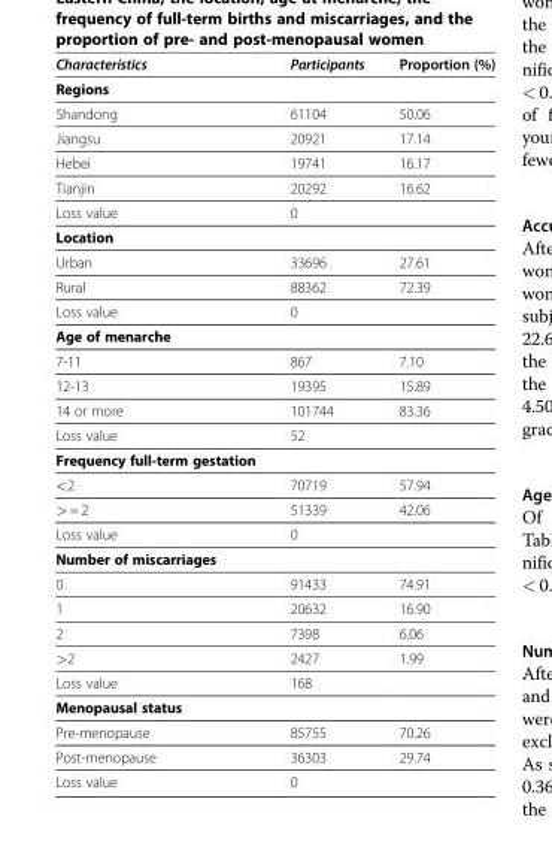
<table><thead><tr><td>Characteristics</td><td>Participants</td><td>Proportion (%)</td></tr></thead><tbody><tr><td colspan="3">Regions</td></tr><tr><td>Shandong</td><td>61104</td><td>50.06</td></tr><tr><td>Jiangsu</td><td>20921</td><td>17.14</td></tr><tr><td>Hebei</td><td>19741</td><td>16.17</td></tr><tr><td>Tianjin</td><td>20292</td><td>16.62</td></tr><tr><td>Loss value</td><td>0</td><td></td></tr><tr><td colspan="3">Location</td></tr><tr><td>Urban</td><td>33696</td><td>27.61</td></tr><tr><td>Rural</td><td>88362</td><td>72.39</td></tr><tr><td>Loss value</td><td>0</td><td></td></tr><tr><td colspan="3">Age of menarche</td></tr><tr><td>7-11</td><td>867</td><td>7.10</td></tr><tr><td>12-13</td><td>19395</td><td>15.89</td></tr><tr><td>14 or more</td><td>101744</td><td>83.36</td></tr><tr><td>Loss value</td><td>52</td><td></td></tr><tr><td colspan="3">Frequency full-term gestation</td></tr><tr><td>&lt;2</td><td>70719</td><td>57.94</td></tr><tr><td>&gt; = 2</td><td>51339</td><td>42.06</td></tr><tr><td>Loss value</td><td>0</td><td></td></tr><tr><td colspan="3">Number of miscarriages</td></tr><tr><td>0</td><td>91433</td><td>74.91</td></tr><tr><td>1</td><td>20632</td><td>16.90</td></tr><tr><td>2</td><td>7398</td><td>6.06</td></tr><tr><td>&gt;2</td><td>2427</td><td>1.99</td></tr><tr><td>Loss value</td><td>168</td><td></td></tr><tr><td colspan="3">Menopausal status</td></tr><tr><td>Pre-menopause</td><td>85755</td><td>70.26</td></tr><tr><td>Post-menopause</td><td>36303</td><td>29.74</td></tr><tr><td>Loss value</td><td>0</td><td></td></tr></tbody></table>